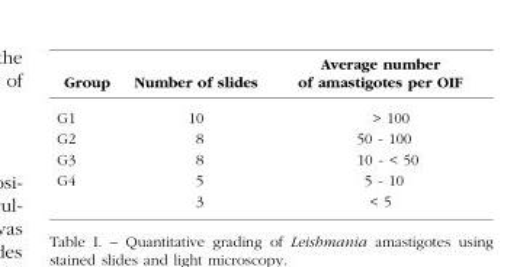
<table><thead><tr><td>Group</td><td>Number of slides</td><td>Average number of amastigotes per OIF</td></tr></thead><tbody><tr><td>G1</td><td>10</td><td>&gt; 100</td></tr><tr><td>G2</td><td>8</td><td>50 - 100</td></tr><tr><td>G3</td><td>8</td><td>10 - &lt; 50</td></tr><tr><td rowspan="2">G4</td><td>5</td><td>5 - 10</td></tr><tr><td>3</td><td>&lt; 5</td></tr></tbody></table>